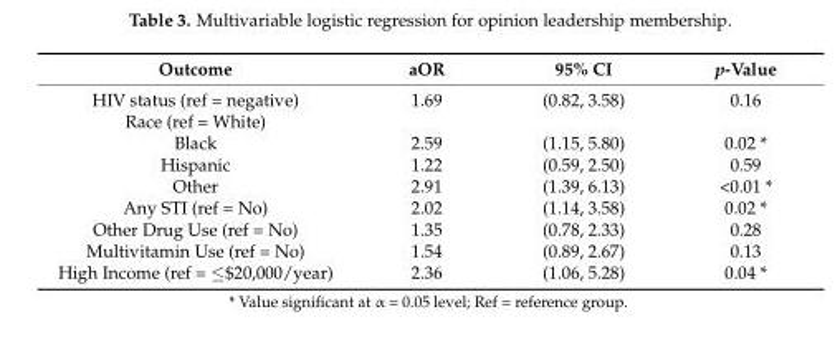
<table><thead><tr><td>Outcome</td><td>aOR</td><td>95% CI</td><td>p-Value</td></tr></thead><tbody><tr><td>HIV status (ref = negative)</td><td>1.69</td><td>(0.82, 3.58)</td><td>0.16</td></tr><tr><td colspan="4">Race (ref = White)</td></tr><tr><td>Black</td><td>2.59</td><td>(1.15, 5.80)</td><td>0.02 *</td></tr><tr><td>Hispanic</td><td>1.22</td><td>(0.59, 2.50)</td><td>0.59</td></tr><tr><td>Other</td><td>2.91</td><td>(1.39, 6.13)</td><td>&lt;0.01 *</td></tr><tr><td>Any STI (ref = No)</td><td>2.02</td><td>(1.14, 3.58)</td><td>0.02 *</td></tr><tr><td>Other Drug Use (ref = No)</td><td>1.35</td><td>(0.78, 2.33)</td><td>0.28</td></tr><tr><td>Multivitamin Use (ref = No)</td><td>1.54</td><td>(0.89, 2.67)</td><td>0.13</td></tr><tr><td>High Income (ref = ≤$20,000/year)</td><td>2.36</td><td>(1.06, 5.28)</td><td>0.04 *</td></tr></tbody></table>